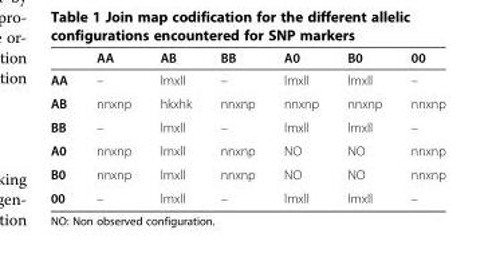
<table><thead><tr><td></td><td>AA</td><td>AB</td><td>BB</td><td>A0</td><td>B0</td><td>00</td></tr></thead><tbody><tr><td>AA</td><td>–</td><td>lmxll</td><td>–</td><td>lmxll</td><td>lmxll</td><td>–</td></tr><tr><td>AB</td><td>nnxnp</td><td>hkxhk</td><td>nnxnp</td><td>nnxnp</td><td>nnxnp</td><td>nnxnp</td></tr><tr><td>BB</td><td>–</td><td>lmxll</td><td>–</td><td>lmxll</td><td>lmxll</td><td>–</td></tr><tr><td>A0</td><td>nnxnp</td><td>lmxll</td><td>nnxnp</td><td>NO</td><td>NO</td><td>nnxnp</td></tr><tr><td>B0</td><td>nnxnp</td><td>lmxll</td><td>nnxnp</td><td>NO</td><td>NO</td><td>nnxnp</td></tr><tr><td>00</td><td>–</td><td>lmxll</td><td>–</td><td>lmxll</td><td>lmxll</td><td>–</td></tr></tbody></table>